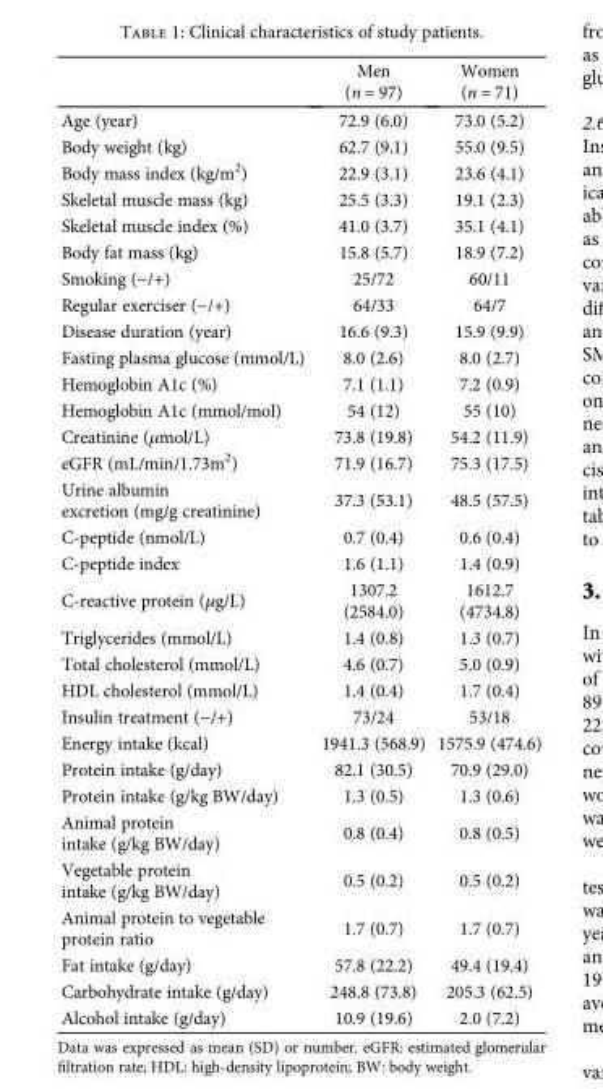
<table><thead><tr><td></td><td>Men (n = 97)</td><td>Women (n = 71)</td></tr></thead><tbody><tr><td>Age (year)</td><td>72.9 (6.0)</td><td>73.0 (5.2)</td></tr><tr><td>Body weight (kg)</td><td>62.7 (9.1)</td><td>55.0 (9.5)</td></tr><tr><td>Body mass index (kg/m<sup>2</sup>)</td><td>22.9 (3.1)</td><td>23.6 (4.1)</td></tr><tr><td>Skeletal muscle mass (kg)</td><td>25.5 (3.3)</td><td>19.1 (2.3)</td></tr><tr><td>Skeletal muscle index (%)</td><td>41.0 (3.7)</td><td>35.1 (4.1)</td></tr><tr><td>Body fat mass (kg)</td><td>15.8 (5.7)</td><td>18.9 (7.2)</td></tr><tr><td>Smoking (−/+)</td><td>25/72</td><td>60/11</td></tr><tr><td>Regular exerciser (−/+)</td><td>64/33</td><td>64/7</td></tr><tr><td>Disease duration (year)</td><td>16.6 (9.3)</td><td>15.9 (9.9)</td></tr><tr><td>Fasting plasma glucose (mmol/L)</td><td>8.0 (2.6)</td><td>8.0 (2.7)</td></tr><tr><td>Hemoglobin A1c (%)</td><td>7.1 (1.1)</td><td>7.2 (0.9)</td></tr><tr><td>Hemoglobin A1c (mmol/mol)</td><td>54 (12)</td><td>55 (10)</td></tr><tr><td>Creatinine (μmol/L)</td><td>73.8 (19.8)</td><td>54.2 (11.9)</td></tr><tr><td>eGFR (mL/min/1.73m<sup>2</sup>)</td><td>71.9 (16.7)</td><td>75.3 (17.5)</td></tr><tr><td>Urine albumin excretion (mg/g creatinine)</td><td>37.3 (53.1)</td><td>48.5 (57.5)</td></tr><tr><td>C-peptide (nmol/L)</td><td>0.7 (0.4)</td><td>0.6 (0.4)</td></tr><tr><td>C-peptide index</td><td>1.6 (1.1)</td><td>1.4 (0.9)</td></tr><tr><td>C-reactive protein (μg/L)</td><td>1307.2 (2584.0)</td><td>1612.7 (4734.8)</td></tr><tr><td>Triglycerides (mmol/L)</td><td>1.4 (0.8)</td><td>1.3 (0.7)</td></tr><tr><td>Total cholesterol (mmol/L)</td><td>4.6 (0.7)</td><td>5.0 (0.9)</td></tr><tr><td>HDL cholesterol (mmol/L)</td><td>1.4 (0.4)</td><td>1.7 (0.4)</td></tr><tr><td>Insulin treatment (−/+)</td><td>73/24</td><td>53/18</td></tr><tr><td>Energy intake (kcal)</td><td>1941.3 (568.9)</td><td>1575.9 (474.6)</td></tr><tr><td>Protein intake (g/day)</td><td>82.1 (30.5)</td><td>70.9 (29.0)</td></tr><tr><td>Protein intake (g/kg BW/day)</td><td>1.3 (0.5)</td><td>1.3 (0.6)</td></tr><tr><td>Animal protein intake (g/kg BW/day)</td><td>0.8 (0.4)</td><td>0.8 (0.5)</td></tr><tr><td>Vegetable protein intake (g/kg BW/day)</td><td>0.5 (0.2)</td><td>0.5 (0.2)</td></tr><tr><td>Animal protein to vegetable protein ratio</td><td>1.7 (0.7)</td><td>1.7 (0.7)</td></tr><tr><td>Fat intake (g/day)</td><td>57.8 (22.2)</td><td>49.4 (19.4)</td></tr><tr><td>Carbohydrate intake (g/day)</td><td>248.8 (73.8)</td><td>205.3 (62.5)</td></tr><tr><td>Alcohol intake (g/day)</td><td>10.9 (19.6)</td><td>2.0 (7.2)</td></tr></tbody></table>